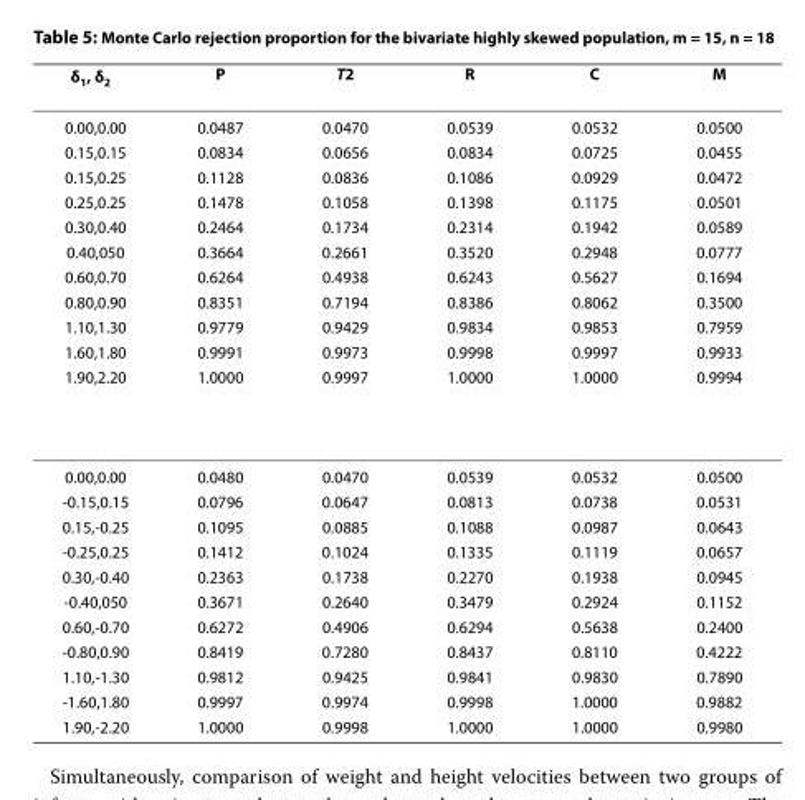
<table><thead><tr><td>δ<sub>1</sub>, δ<sub>2</sub></td><td>P</td><td>T<sup>2</sup></td><td>R</td><td>C</td><td>M</td></tr></thead><tbody><tr><td>0.00,0.00</td><td>0.0487</td><td>0.0470</td><td>0.0539</td><td>0.0532</td><td>0.0500</td></tr><tr><td>0.15,0.15</td><td>0.0834</td><td>0.0656</td><td>0.0834</td><td>0.0725</td><td>0.0455</td></tr><tr><td>0.15,0.25</td><td>0.1128</td><td>0.0836</td><td>0.1086</td><td>0.0929</td><td>0.0472</td></tr><tr><td>0.25,0.25</td><td>0.1478</td><td>0.1058</td><td>0.1398</td><td>0.1175</td><td>0.0501</td></tr><tr><td>0.30,0.40</td><td>0.2464</td><td>0.1734</td><td>0.2314</td><td>0.1942</td><td>0.0589</td></tr><tr><td>0.40,050</td><td>0.3664</td><td>0.2661</td><td>0.3520</td><td>0.2948</td><td>0.0777</td></tr><tr><td>0.60,0.70</td><td>0.6264</td><td>0.4938</td><td>0.6243</td><td>0.5627</td><td>0.1694</td></tr><tr><td>0.80,0.90</td><td>0.8351</td><td>0.7194</td><td>0.8386</td><td>0.8062</td><td>0.3500</td></tr><tr><td>1.10,1.30</td><td>0.9779</td><td>0.9429</td><td>0.9834</td><td>0.9853</td><td>0.7959</td></tr><tr><td>1.60,1.80</td><td>0.9991</td><td>0.9973</td><td>0.9998</td><td>0.9997</td><td>0.9933</td></tr><tr><td>1.90,2.20</td><td>1.0000</td><td>0.9997</td><td>1.0000</td><td>1.0000</td><td>0.9994</td></tr><tr><td>0.00,0.00</td><td>0.0480</td><td>0.0470</td><td>0.0539</td><td>0.0532</td><td>0.0500</td></tr><tr><td>-0.15,0.15</td><td>0.0796</td><td>0.0647</td><td>0.0813</td><td>0.0738</td><td>0.0531</td></tr><tr><td>0.15,-0.25</td><td>0.1095</td><td>0.0885</td><td>0.1088</td><td>0.0987</td><td>0.0643</td></tr><tr><td>-0.25,0.25</td><td>0.1412</td><td>0.1024</td><td>0.1335</td><td>0.1119</td><td>0.0657</td></tr><tr><td>0.30,-0.40</td><td>0.2363</td><td>0.1738</td><td>0.2270</td><td>0.1938</td><td>0.0945</td></tr><tr><td>-0.40,050</td><td>0.3671</td><td>0.2640</td><td>0.3479</td><td>0.2924</td><td>0.1152</td></tr><tr><td>0.60,-0.70</td><td>0.6272</td><td>0.4906</td><td>0.6294</td><td>0.5638</td><td>0.2400</td></tr><tr><td>-0.80,0.90</td><td>0.8419</td><td>0.7280</td><td>0.8437</td><td>0.8110</td><td>0.4222</td></tr><tr><td>1.10,-1.30</td><td>0.9812</td><td>0.9425</td><td>0.9841</td><td>0.9830</td><td>0.7890</td></tr><tr><td>-1.60,1.80</td><td>0.9997</td><td>0.9974</td><td>0.9998</td><td>1.0000</td><td>0.9882</td></tr><tr><td>1.90,-2.20</td><td>1.0000</td><td>0.9998</td><td>1.0000</td><td>1.0000</td><td>0.9980</td></tr></tbody></table>